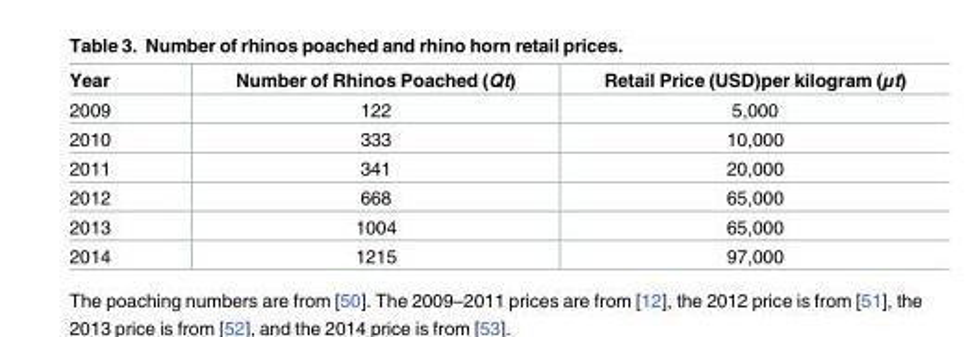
<table><thead><tr><td>Year</td><td>Number of Rhinos Poached (Qt)</td><td>Retail Price (USD)per kilogram (μt)</td></tr></thead><tbody><tr><td>2009</td><td>122</td><td>5,000</td></tr><tr><td>2010</td><td>333</td><td>10,000</td></tr><tr><td>2011</td><td>341</td><td>20,000</td></tr><tr><td>2012</td><td>668</td><td>65,000</td></tr><tr><td>2013</td><td>1004</td><td>65,000</td></tr><tr><td>2014</td><td>1215</td><td>97,000</td></tr></tbody></table>